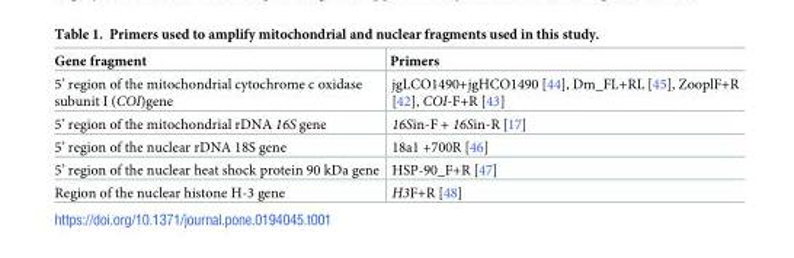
<table><thead><tr><td>Gene fragment</td><td>Primers</td></tr></thead><tbody><tr><td>5’ region of the mitochondrial cytochrome c oxidase subunit I (COI)gene</td><td>jgLCO1490+jgHCO1490 [44], Dm_FL+RL [45], ZooplF+R [42], COI-F+R [43]</td></tr><tr><td>5’ region of the mitochondrial rDNA 16S gene</td><td>16Sin-F + 16Sin-R [17]</td></tr><tr><td>5’ region of the nuclear rDNA 18S gene</td><td>18a1 +700R [46]</td></tr><tr><td>5’ region of the nuclear heat shock protein 90 kDa gene</td><td>HSP-90_F+R [47]</td></tr><tr><td>Region of the nuclear histone H-3 gene</td><td>H3F+R [48]</td></tr></tbody></table>